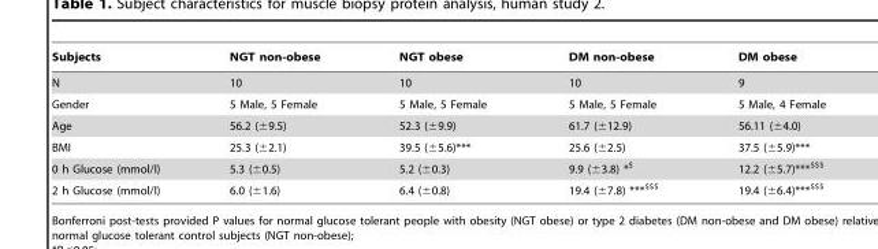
<table><thead><tr><td>Subjects</td><td>NGT non-obese</td><td>NGT obese</td><td>DM non-obese</td><td>DM obese</td></tr></thead><tbody><tr><td>N</td><td>10</td><td>10</td><td>10</td><td>9</td></tr><tr><td>Gender</td><td>5 Male, 5 Female</td><td>5 Male, 5 Female</td><td>5 Male, 5 Female</td><td>5 Male, 4 Female</td></tr><tr><td>Age</td><td>56.2 (±9.5)</td><td>52.3 (±9.9)</td><td>61.7 (±12.9)</td><td>56.11 (±4.0)</td></tr><tr><td>BMI</td><td>25.3 (±2.1)</td><td>39.5 (±5.6)***</td><td>25.6 (±2.5)</td><td>37.5 (±5.9)***</td></tr><tr><td>0 h Glucose (mmol/l)</td><td>5.3 (±0.5)</td><td>5.2 (±0.3)</td><td>9.9 (±3.8) *$</td><td>12.2 (±5.7)***$$$</td></tr><tr><td>2 h Glucose (mmol/l)</td><td>6.0 (±1.6)</td><td>6.4 (±0.8)</td><td>19.4 (±7.8) ***$$$</td><td>19.4 (±6.4)***$$$</td></tr></tbody></table>